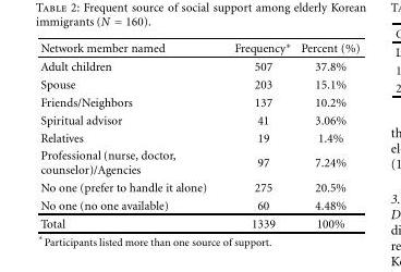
<table><thead><tr><td>Network member named</td><td>Frequency∗</td><td>Percent (%)</td></tr></thead><tbody><tr><td>Adult children</td><td>507</td><td>37.8%</td></tr><tr><td>Spouse</td><td>203</td><td>15.1%</td></tr><tr><td>Friends/Neighbors</td><td>137</td><td>10.2%</td></tr><tr><td>Spiritual advisor</td><td>41</td><td>3.06%</td></tr><tr><td>Relatives</td><td>19</td><td>1.4%</td></tr><tr><td>Professional (nurse, doctor, counselor)/Agencies</td><td>97</td><td>7.24%</td></tr><tr><td>No one (prefer to handle it alone)</td><td>275</td><td>20.5%</td></tr><tr><td>No one (no one available)</td><td>60</td><td>4.48%</td></tr><tr><td>Total</td><td>1339</td><td>100%</td></tr></tbody></table>